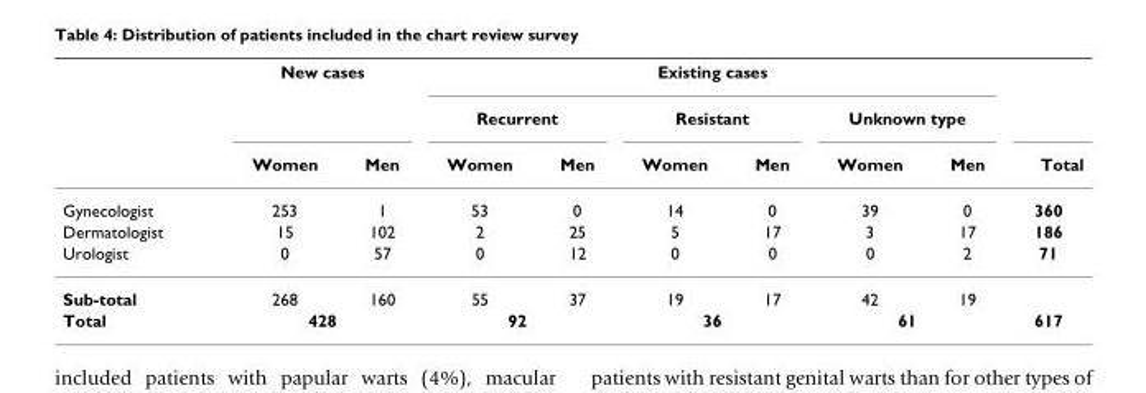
<table><thead><tr><td rowspan="3"></td><td colspan="2">New cases</td><td colspan="6">Existing cases</td><td rowspan="3">Total</td></tr><tr><td rowspan="2">Women</td><td rowspan="2">Men</td><td colspan="2">Recurrent</td><td colspan="2">Resistant</td><td colspan="2">Unknown type</td></tr><tr><td>Women</td><td>Men</td><td>Women</td><td>Men</td><td>Women</td><td>Men</td></tr></thead><tbody><tr><td>Gynecologist</td><td>253</td><td>1</td><td>53</td><td>0</td><td>14</td><td>0</td><td>39</td><td>0</td><td>360</td></tr><tr><td>Dermatologist</td><td>15</td><td>102</td><td>2</td><td>25</td><td>5</td><td>17</td><td>3</td><td>17</td><td>186</td></tr><tr><td>Urologist</td><td>0</td><td>57</td><td>0</td><td>12</td><td>0</td><td>0</td><td>0</td><td>2</td><td>71</td></tr><tr><td>Sub-total</td><td>268</td><td>160</td><td>55</td><td>37</td><td>19</td><td>17</td><td>42</td><td>19</td><td></td></tr><tr><td>Total</td><td colspan="2">428</td><td colspan="2">92</td><td colspan="2">36</td><td colspan="2">61</td><td>617</td></tr></tbody></table>